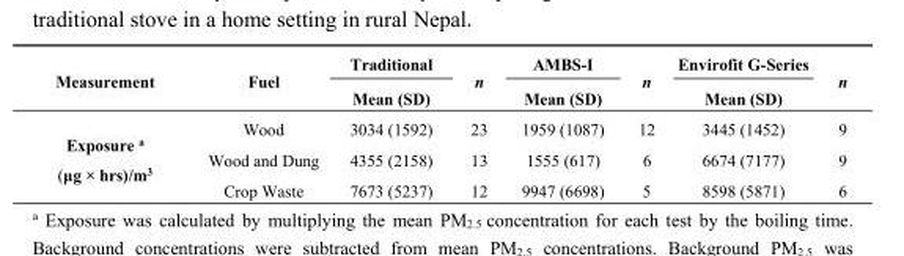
<table><thead><tr><td rowspan="2">Measurement</td><td rowspan="2">Fuel</td><td rowspan="2">Traditional Mean (SD)</td><td rowspan="2">n</td><td rowspan="2">AMBS-I Mean (SD)</td><td rowspan="2">n</td><td rowspan="2">Envirofit G-Series Mean (SD)</td><td rowspan="2">n</td></tr><tr></tr></thead><tbody><tr><td rowspan="3">Exposure <sup>a</sup> (μg × hrs)/m<sup>3</sup></td><td>Wood</td><td>3034 (1592)</td><td>23</td><td>1959 (1087)</td><td>12</td><td>3445 (1452)</td><td>9</td></tr><tr><td>Wood and Dung</td><td>4355 (2158)</td><td>13</td><td>1555 (617)</td><td>6</td><td>6674 (7177)</td><td>9</td></tr><tr><td>Crop Waste</td><td>7673 (5237)</td><td>12</td><td>9947 (6698)</td><td>5</td><td>8598 (5871)</td><td>6</td></tr></tbody></table>